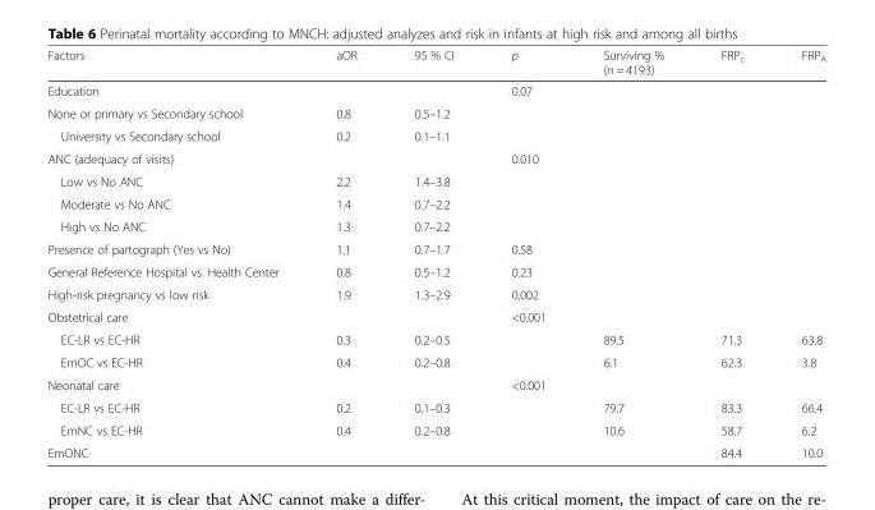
<table><thead><tr><td>Factors</td><td>aOR</td><td>95 % CI</td><td>p</td><td>Surviving % (n = 4193)</td><td>FRP<sub>c</sub></td><td>FRP<sub>A</sub></td></tr></thead><tbody><tr><td>Education</td><td></td><td></td><td>0.07</td><td></td><td></td><td></td></tr><tr><td>None or primary vs Secondary school</td><td>0.8</td><td>0.5–1.2</td><td></td><td></td><td></td><td></td></tr><tr><td>University vs Secondary school</td><td>0.2</td><td>0.1–1.1</td><td></td><td></td><td></td><td></td></tr><tr><td>ANC (adequacy of visits)</td><td></td><td></td><td>0.010</td><td></td><td></td><td></td></tr><tr><td>Low vs No ANC</td><td>2.2</td><td>1.4–3.8</td><td></td><td></td><td></td><td></td></tr><tr><td>Moderate vs No ANC</td><td>1.4</td><td>0.7–2.2</td><td></td><td></td><td></td><td></td></tr><tr><td>High vs No ANC</td><td>1.3</td><td>0.7–2.2</td><td></td><td></td><td></td><td></td></tr><tr><td>Presence of partograph (Yes vs No)</td><td>1.1</td><td>0.7–1.7</td><td>0.58</td><td></td><td></td><td></td></tr><tr><td>General Reference Hospital vs. Health Center</td><td>0.8</td><td>0.5–1.2</td><td>0.23</td><td></td><td></td><td></td></tr><tr><td>High-risk pregnancy vs low risk</td><td>1.9</td><td>1.3–2.9</td><td>0.002</td><td></td><td></td><td></td></tr><tr><td>Obstetrical care</td><td></td><td></td><td>&lt;0.001</td><td></td><td></td><td></td></tr><tr><td>EC-LR vs EC-HR</td><td>0.3</td><td>0.2–0.5</td><td></td><td>89.5</td><td>71.3</td><td>63.8</td></tr><tr><td>EmOC vs EC-HR</td><td>0.4</td><td>0.2–0.8</td><td></td><td>6.1</td><td>62.3</td><td>3.8</td></tr><tr><td>Neonatal care</td><td></td><td></td><td>&lt;0.001</td><td></td><td></td><td></td></tr><tr><td>EC-LR vs EC-HR</td><td>0.2</td><td>0.1–0.3</td><td></td><td>79.7</td><td>83.3</td><td>66.4</td></tr><tr><td>EmNC vs EC-HR</td><td>0.4</td><td>0.2–0.8</td><td></td><td>10.6</td><td>58.7</td><td>6.2</td></tr><tr><td>EmONC</td><td></td><td></td><td></td><td></td><td>84.4</td><td>10.0</td></tr></tbody></table>